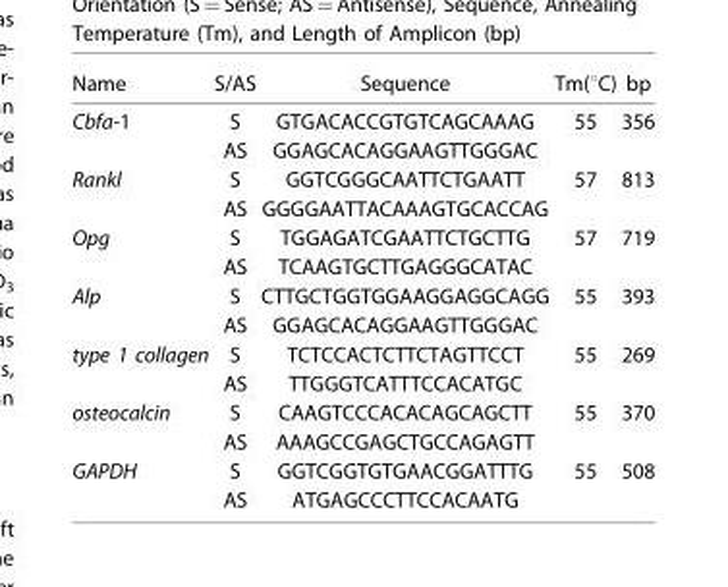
<table><thead><tr><td>Name</td><td>S/AS</td><td>Sequence</td><td>Tm(°C)</td><td>bp</td></tr></thead><tbody><tr><td rowspan="2">Cbfa-1</td><td>S</td><td>GTGACACCGTGTCAGCAAAG</td><td>55</td><td>356</td></tr><tr><td>AS</td><td>GGAGCACAGGAAGTTGGGAC</td><td></td><td></td></tr><tr><td rowspan="2">Rankl</td><td>S</td><td>GGTCGGGCAATTCTGAATT</td><td>57</td><td>813</td></tr><tr><td>AS</td><td>GGGGAATTACAAAGTGCACCAG</td><td></td><td></td></tr><tr><td rowspan="2">Opg</td><td>S</td><td>TGGAGATCGAATTCTGCTTG</td><td>57</td><td>719</td></tr><tr><td>AS</td><td>TCAAGTGCTTGAGGGCATAC</td><td></td><td></td></tr><tr><td rowspan="2">Alp</td><td>S</td><td>CTTGCTGGTGGAAGGAGGCAGG</td><td>55</td><td>393</td></tr><tr><td>AS</td><td>GGAGCACAGGAAGTTGGGAC</td><td></td><td></td></tr><tr><td rowspan="2">type 1 collagen</td><td>S</td><td>TCTCCACTCTTCTAGTTCCT</td><td>55</td><td>269</td></tr><tr><td>AS</td><td>TTGGGTCATTTCCACATGC</td><td></td><td></td></tr><tr><td rowspan="2">osteocalcin</td><td>S</td><td>CAAGTCCCACACAGCAGCTT</td><td>55</td><td>370</td></tr><tr><td>AS</td><td>AAAGCCGAGCTGCCAGAGTT</td><td></td><td></td></tr><tr><td rowspan="2">GAPDH</td><td>S</td><td>GGTCGGTGTGAACGGATTTG</td><td>55</td><td>508</td></tr><tr><td>AS</td><td>ATGAGCCCTTCCACAATG</td><td></td><td></td></tr></tbody></table>